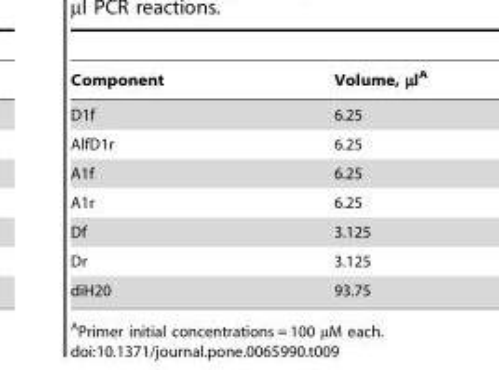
<table><thead><tr><td>Component</td><td>Volume, µl<sup>A</sup></td></tr></thead><tbody><tr><td>D1f</td><td>6.25</td></tr><tr><td>AlfD1r</td><td>6.25</td></tr><tr><td>A1f</td><td>6.25</td></tr><tr><td>A1r</td><td>6.25</td></tr><tr><td>Df</td><td>3.125</td></tr><tr><td>Dr</td><td>3.125</td></tr><tr><td>diH20</td><td>93.75</td></tr></tbody></table>